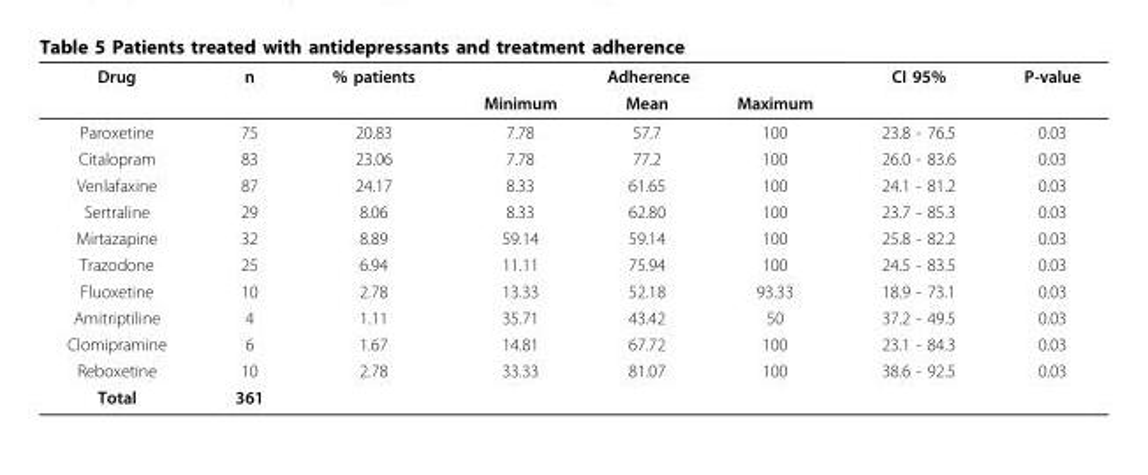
<table><thead><tr><td rowspan="2">Drug</td><td rowspan="2">n</td><td rowspan="2">% patients</td><td colspan="3">Adherence</td><td rowspan="2">CI 95%</td><td rowspan="2">P-value</td></tr><tr><td>Minimum</td><td>Mean</td><td>Maximum</td></tr></thead><tbody><tr><td>Paroxetine</td><td>75</td><td>20.83</td><td>7.78</td><td>57.7</td><td>100</td><td>23.8 - 76.5</td><td>0.03</td></tr><tr><td>Citalopram</td><td>83</td><td>23.06</td><td>7.78</td><td>77.2</td><td>100</td><td>26.0 - 83.6</td><td>0.03</td></tr><tr><td>Venlafaxine</td><td>87</td><td>24.17</td><td>8.33</td><td>61.65</td><td>100</td><td>24.1 - 81.2</td><td>0.03</td></tr><tr><td>Sertraline</td><td>29</td><td>8.06</td><td>8.33</td><td>62.80</td><td>100</td><td>23.7 - 85.3</td><td>0.03</td></tr><tr><td>Mirtazapine</td><td>32</td><td>8.89</td><td>59.14</td><td>59.14</td><td>100</td><td>25.8 - 82.2</td><td>0.03</td></tr><tr><td>Trazodone</td><td>25</td><td>6.94</td><td>11.11</td><td>75.94</td><td>100</td><td>24.5 - 83.5</td><td>0.03</td></tr><tr><td>Fluoxetine</td><td>10</td><td>2.78</td><td>13.33</td><td>52.18</td><td>93.33</td><td>18.9 - 73.1</td><td>0.03</td></tr><tr><td>Amitriptiline</td><td>4</td><td>1.11</td><td>35.71</td><td>43.42</td><td>50</td><td>37.2 - 49.5</td><td>0.03</td></tr><tr><td>Clomipramine</td><td>6</td><td>1.67</td><td>14.81</td><td>67.72</td><td>100</td><td>23.1 - 84.3</td><td>0.03</td></tr><tr><td>Reboxetine</td><td>10</td><td>2.78</td><td>33.33</td><td>81.07</td><td>100</td><td>38.6 - 92.5</td><td>0.03</td></tr><tr><td>Total</td><td>361</td><td></td><td></td><td></td><td></td><td></td><td></td></tr></tbody></table>